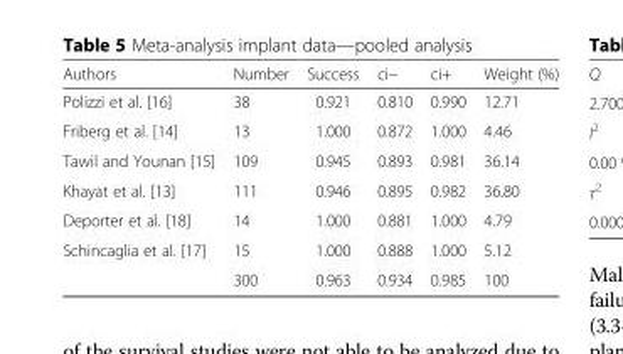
<table><thead><tr><td>Authors</td><td>Number</td><td>Success</td><td>ci−</td><td>ci+</td><td>Weight (%)</td></tr></thead><tbody><tr><td>Polizzi et al. [16]</td><td>38</td><td>0.921</td><td>0.810</td><td>0.990</td><td>12.71</td></tr><tr><td>Friberg et al. [14]</td><td>13</td><td>1.000</td><td>0.872</td><td>1.000</td><td>4.46</td></tr><tr><td>Tawil and Younan [15]</td><td>109</td><td>0.945</td><td>0.893</td><td>0.981</td><td>36.14</td></tr><tr><td>Khayat et al. [13]</td><td>111</td><td>0.946</td><td>0.895</td><td>0.982</td><td>36.80</td></tr><tr><td>Deporter et al. [18]</td><td>14</td><td>1.000</td><td>0.881</td><td>1.000</td><td>4.79</td></tr><tr><td rowspan="2">Schincaglia et al. [17]</td><td>15</td><td>1.000</td><td>0.888</td><td>1.000</td><td>5.12</td></tr><tr><td>300</td><td>0.963</td><td>0.934</td><td>0.985</td><td>100</td></tr></tbody></table>